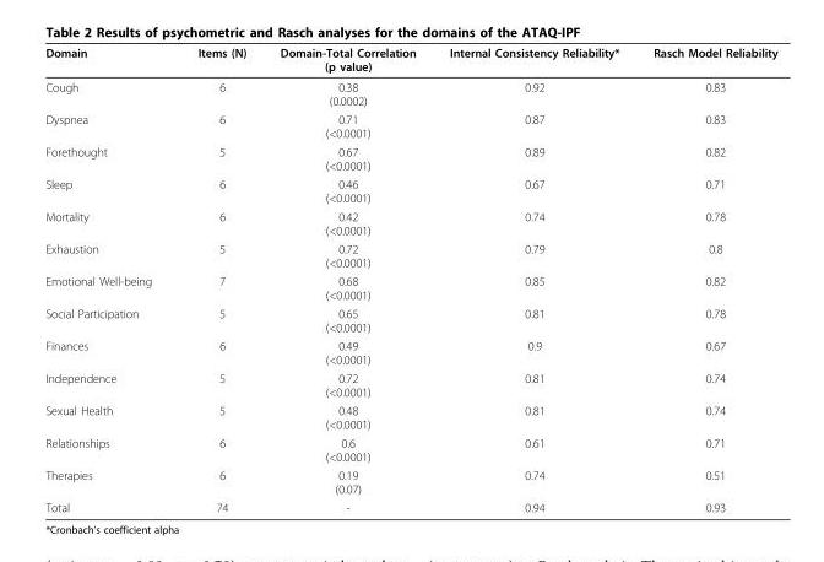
<table><thead><tr><td>Domain</td><td>Items (N)</td><td>Domain-Total Correlation (p value)</td><td>Internal Consistency Reliability*</td><td>Rasch Model Reliability</td></tr></thead><tbody><tr><td>Cough</td><td>6</td><td>0.38 (0.0002)</td><td>0.92</td><td>0.83</td></tr><tr><td>Dyspnea</td><td>6</td><td>0.71 (&lt;0.0001)</td><td>0.87</td><td>0.83</td></tr><tr><td>Forethought</td><td>5</td><td>0.67 (&lt;0.0001)</td><td>0.89</td><td>0.82</td></tr><tr><td>Sleep</td><td>6</td><td>0.46 (&lt;0.0001)</td><td>0.67</td><td>0.71</td></tr><tr><td>Mortality</td><td>6</td><td>0.42 (&lt;0.0001)</td><td>0.74</td><td>0.78</td></tr><tr><td>Exhaustion</td><td>5</td><td>0.72 (&lt;0.0001)</td><td>0.79</td><td>0.8</td></tr><tr><td>Emotional Well-being</td><td>7</td><td>0.68 (&lt;0.0001)</td><td>0.85</td><td>0.82</td></tr><tr><td>Social Participation</td><td>5</td><td>0.65 (&lt;0.0001)</td><td>0.81</td><td>0.78</td></tr><tr><td>Finances</td><td>6</td><td>0.49 (&lt;0.0001)</td><td>0.9</td><td>0.67</td></tr><tr><td>Independence</td><td>5</td><td>0.72 (&lt;0.0001)</td><td>0.81</td><td>0.74</td></tr><tr><td>Sexual Health</td><td>5</td><td>0.48 (&lt;0.0001)</td><td>0.81</td><td>0.74</td></tr><tr><td>Relationships</td><td>6</td><td>0.6 (&lt;0.0001)</td><td>0.61</td><td>0.71</td></tr><tr><td>Therapies</td><td>6</td><td>0.19 (0.07)</td><td>0.74</td><td>0.51</td></tr><tr><td>Total</td><td>74</td><td>-</td><td>0.94</td><td>0.93</td></tr></tbody></table>